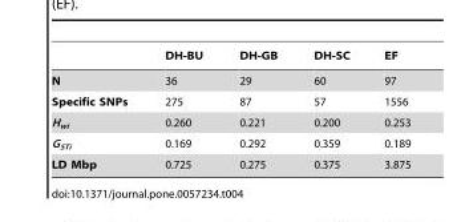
<table><thead><tr><td></td><td>DH-BU</td><td>DH-GB</td><td>DH-SC</td><td>EF</td></tr></thead><tbody><tr><td>N</td><td>36</td><td>29</td><td>60</td><td>97</td></tr><tr><td>Specific SNPs</td><td>275</td><td>87</td><td>57</td><td>1556</td></tr><tr><td>H<sub>wi</sub></td><td>0.260</td><td>0.221</td><td>0.200</td><td>0.253</td></tr><tr><td>G<sub>STi</sub></td><td>0.169</td><td>0.292</td><td>0.359</td><td>0.189</td></tr><tr><td>LD Mbp</td><td>0.725</td><td>0.275</td><td>0.375</td><td>3.875</td></tr></tbody></table>